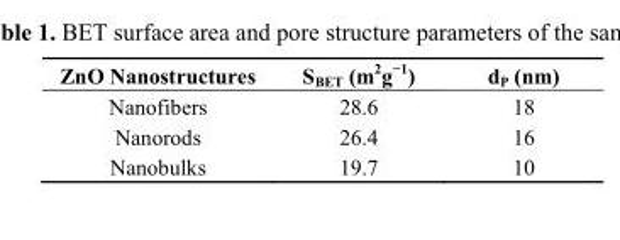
<table><thead><tr><td>ZnO Nanostructures</td><td>S<sub>BET</sub> (m<sup>2</sup>g<sup>−1</sup>)</td><td>d<sub>P</sub> (nm)</td></tr></thead><tbody><tr><td>Nanofibers</td><td>28.6</td><td>18</td></tr><tr><td>Nanorods</td><td>26.4</td><td>16</td></tr><tr><td>Nanobulks</td><td>19.7</td><td>10</td></tr></tbody></table>